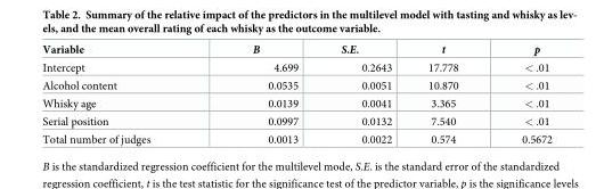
<table><thead><tr><td>Variable</td><td>B</td><td>S.E.</td><td>t</td><td>p</td></tr></thead><tbody><tr><td>Intercept</td><td>4.699</td><td>0.2643</td><td>17.778</td><td>&lt; .01</td></tr><tr><td>Alcohol content</td><td>0.0535</td><td>0.0051</td><td>10.870</td><td>&lt; .01</td></tr><tr><td>Whisky age</td><td>0.0139</td><td>0.0041</td><td>3.365</td><td>&lt; .01</td></tr><tr><td>Serial position</td><td>0.0997</td><td>0.0132</td><td>7.540</td><td>&lt; .01</td></tr><tr><td>Total number of judges</td><td>0.0013</td><td>0.0022</td><td>0.574</td><td>0.5672</td></tr></tbody></table>